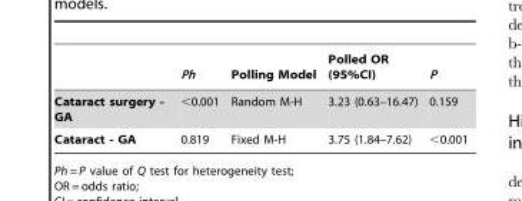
<table><thead><tr><td></td><td>Ph</td><td>Polling Model</td><td>Polled OR (95%CI)</td><td>P</td></tr></thead><tbody><tr><td>Cataract surgery - GA</td><td>&lt;0.001</td><td>Random M-H</td><td>3.23 (0.63–16.47)</td><td>0.159</td></tr><tr><td>Cataract - GA</td><td>0.819</td><td>Fixed M-H</td><td>3.75 (1.84–7.62)</td><td>&lt;0.001</td></tr></tbody></table>